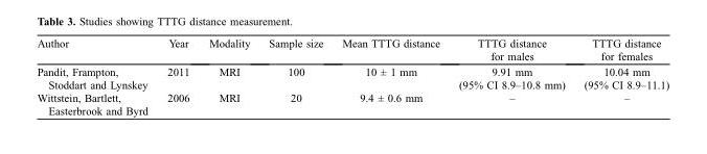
<table><thead><tr><td>Author</td><td>Year</td><td>Modality</td><td>Sample size</td><td>Mean TTTG distance</td><td>TTTG distance for males</td><td>TTTG distance for females</td></tr></thead><tbody><tr><td>Pandit, Frampton, Stoddart and Lynskey</td><td>2011</td><td>MRI</td><td>100</td><td>10 ± 1 mm</td><td>9.91 mm (95% CI 8.9–10.8 mm)</td><td>10.04 mm (95% CI 8.9–11.1)</td></tr><tr><td>Wittstein, Bartlett, Easterbrook and Byrd</td><td>2006</td><td>MRI</td><td>20</td><td>9.4 ± 0.6 mm</td><td>–</td><td>–</td></tr></tbody></table>